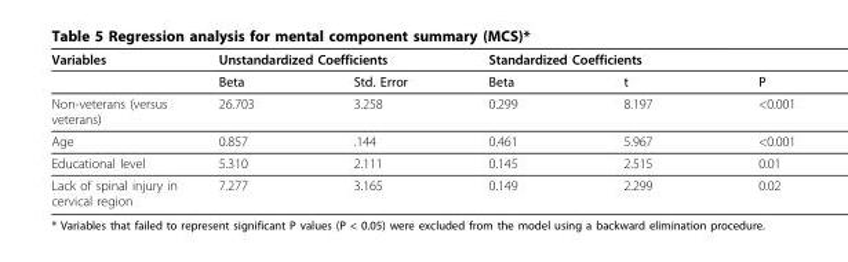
<table><thead><tr><td rowspan="2">Variables</td><td colspan="2">Unstandardized Coefficients</td><td colspan="3">Standardized Coefficients</td></tr><tr><td>Beta</td><td>Std. Error</td><td>Beta</td><td>t</td><td>P</td></tr></thead><tbody><tr><td>Non-veterans (versus veterans)</td><td>26.703</td><td>3.258</td><td>0.299</td><td>8.197</td><td>&lt;0.001</td></tr><tr><td>Age</td><td>0.857</td><td>.144</td><td>0.461</td><td>5.967</td><td>&lt;0.001</td></tr><tr><td>Educational level</td><td>5.310</td><td>2.111</td><td>0.145</td><td>2.515</td><td>0.01</td></tr><tr><td>Lack of spinal injury in cervical region</td><td>7.277</td><td>3.165</td><td>0.149</td><td>2.299</td><td>0.02</td></tr></tbody></table>